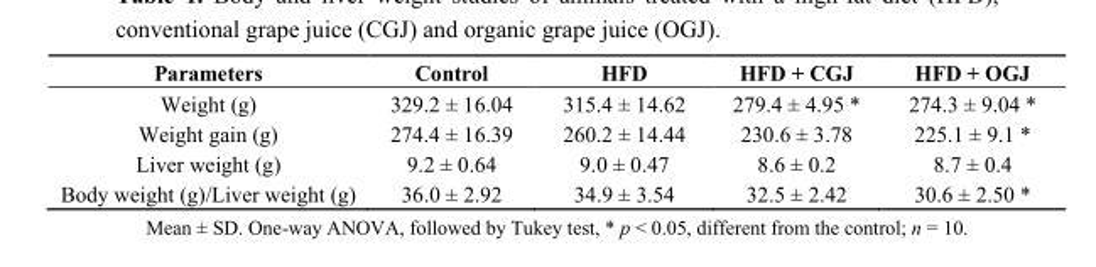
<table><thead><tr><td>Parameters</td><td>Control</td><td>HFD</td><td>HFD + CGJ</td><td>HFD + OGJ</td></tr></thead><tbody><tr><td>Weight (g)</td><td>329.2 ± 16.04</td><td>315.4 ± 14.62</td><td>279.4 ± 4.95 *</td><td>274.3 ± 9.04 *</td></tr><tr><td>Weight gain (g)</td><td>274.4 ± 16.39</td><td>260.2 ± 14.44</td><td>230.6 ± 3.78</td><td>225.1 ± 9.1 *</td></tr><tr><td>Liver weight (g)</td><td>9.2 ± 0.64</td><td>9.0 ± 0.47</td><td>8.6 ± 0.2</td><td>8.7 ± 0.4</td></tr><tr><td>Body weight (g)/Liver weight (g)</td><td>36.0 ± 2.92</td><td>34.9 ± 3.54</td><td>32.5 ± 2.42</td><td>30.6 ± 2.50 *</td></tr></tbody></table>